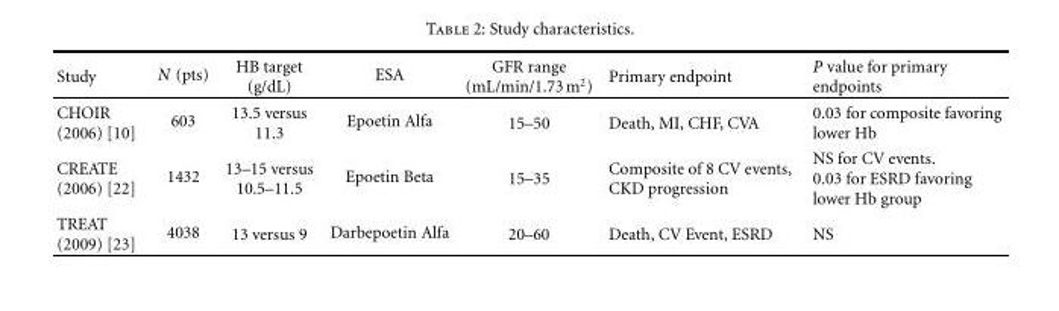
<table><thead><tr><td>Study</td><td>N (pts)</td><td>HB target (g/dL)</td><td>ESA</td><td>GFR range (mL/min/1.73m<sup>2</sup>)</td><td>Primary endpoint</td><td>P value for primary endpoints</td></tr></thead><tbody><tr><td>CHOIR (2006) [10]</td><td>603</td><td>13.5 versus 11.3</td><td>Epoetin Alfa</td><td>15–50</td><td>Death, MI, CHF, CVA</td><td>0.03 for composite favoring lower Hb</td></tr><tr><td>CREATE (2006) [22]</td><td>1432</td><td>13–15 versus 10.5–11.5</td><td>Epoetin Beta</td><td>15–35</td><td>Composite of 8 CV events, CKD progression</td><td>NS for CV events. 0.03 for ESRD favoring lower Hb group</td></tr><tr><td>TREAT (2009) [23]</td><td>4038</td><td>13 versus 9</td><td>Darbepoetin Alfa</td><td>20–60</td><td>Death, CV Event, ESRD</td><td>NS</td></tr></tbody></table>